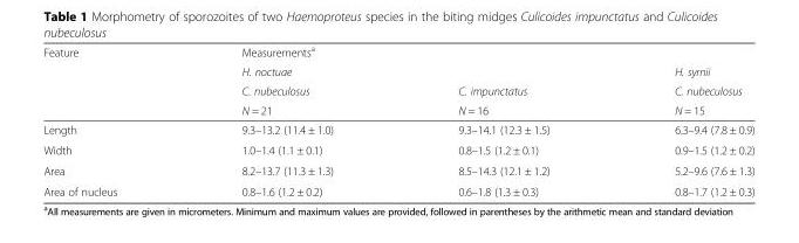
<table><thead><tr><td rowspan="4">Feature</td><td colspan="3">Measurements<sup>a</sup></td></tr><tr><td colspan="2">H. noctuae</td><td rowspan="3">H. syrnii C. nubeculosus N = 15</td></tr><tr><td rowspan="2">C. nubeculosus N = 21</td><td rowspan="2">C. impunctatus N = 16</td></tr><tr></tr></thead><tbody><tr><td>Length</td><td>9.3–13.2 (11.4 ± 1.0)</td><td>9.3–14.1 (12.3 ± 1.5)</td><td>6.3–9.4 (7.8 ± 0.9)</td></tr><tr><td>Width</td><td>1.0–1.4 (1.1 ± 0.1)</td><td>0.8–1.5 (1.2 ± 0.1)</td><td>0.9–1.5 (1.2 ± 0.2)</td></tr><tr><td>Area</td><td>8.2–13.7 (11.3 ± 1.3)</td><td>8.5–14.3 (12.1 ± 1.2)</td><td>5.2–9.6 (7.6 ± 1.3)</td></tr><tr><td>Area of nucleus</td><td>0.8–1.6 (1.2 ± 0.2)</td><td>0.6–1.8 (1.3 ± 0.3)</td><td>0.8–1.7 (1.2 ± 0.3)</td></tr></tbody></table>